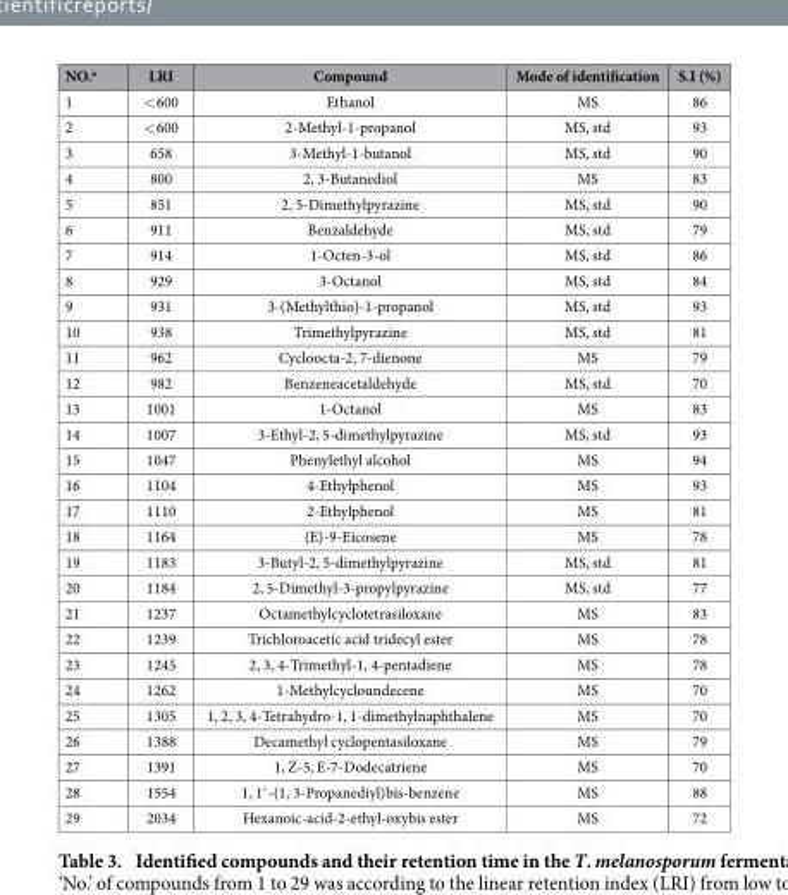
<table><thead><tr><td>NO.<sup>a</sup></td><td>LRI</td><td>Compound</td><td>Mode of identification</td><td>S.I (%)</td></tr></thead><tbody><tr><td>1</td><td>&lt; 600</td><td>Ethanol</td><td>MS</td><td>86</td></tr><tr><td>2</td><td>&lt; 600</td><td>2-Methyl-1-propanol</td><td>MS, std</td><td>93</td></tr><tr><td>3</td><td>658</td><td>3-Methyl-1-butanol</td><td>MS, std</td><td>90</td></tr><tr><td>4</td><td>800</td><td>2, 3-Butanediol</td><td>MS</td><td>83</td></tr><tr><td>5</td><td>851</td><td>2, 5-Dimethylpyrazine</td><td>MS, std</td><td>90</td></tr><tr><td>6</td><td>911</td><td>Benzaldehyde</td><td>MS, std</td><td>79</td></tr><tr><td>7</td><td>914</td><td>1-Octen-3-ol</td><td>MS, std</td><td>86</td></tr><tr><td>8</td><td>929</td><td>3-Octanol</td><td>MS, std</td><td>84</td></tr><tr><td>9</td><td>931</td><td>3-(Methylthio)-1-propanol</td><td>MS, std</td><td>93</td></tr><tr><td>10</td><td>938</td><td>Trimethylpyrazine</td><td>MS, std</td><td>81</td></tr><tr><td>11</td><td>962</td><td>Cycloocta-2, 7-dienone</td><td>MS</td><td>79</td></tr><tr><td>12</td><td>982</td><td>Benzeneacetaldehyde</td><td>MS, std</td><td>70</td></tr><tr><td>13</td><td>1001</td><td>1-Octanol</td><td>MS</td><td>83</td></tr><tr><td>14</td><td>1007</td><td>3-Ethyl-2, 5-dimethylpyrazine</td><td>MS, std</td><td>93</td></tr><tr><td>15</td><td>1047</td><td>Phenylethyl alcohol</td><td>MS</td><td>94</td></tr><tr><td>16</td><td>1104</td><td>4-Ethylphenol</td><td>MS</td><td>93</td></tr><tr><td>17</td><td>1110</td><td>2-Ethylphenol</td><td>MS</td><td>81</td></tr><tr><td>18</td><td>1164</td><td>(E)-9-Eicosene</td><td>MS</td><td>78</td></tr><tr><td>19</td><td>1183</td><td>3-Butyl-2, 5-dimethylpyrazine</td><td>MS, std</td><td>81</td></tr><tr><td>20</td><td>1184</td><td>2, 5-Dimethyl-3-propylpyrazine</td><td>MS, std</td><td>77</td></tr><tr><td>21</td><td>1237</td><td>Octamethylcyclotetrasiloxane</td><td>MS</td><td>83</td></tr><tr><td>22</td><td>1239</td><td>Trichloroacetic acid tridecyl ester</td><td>MS</td><td>78</td></tr><tr><td>23</td><td>1245</td><td>2, 3, 4-Trimethyl-1, 4-pentadiene</td><td>MS</td><td>78</td></tr><tr><td>24</td><td>1262</td><td>1-Methylcycloundecene</td><td>MS</td><td>70</td></tr><tr><td>25</td><td>1305</td><td>1, 2, 3, 4-Tetrahydro-1, 1-dimethylnaphthalene</td><td>MS</td><td>70</td></tr><tr><td>26</td><td>1388</td><td>Decamethyl cyclopentasiloxane</td><td>MS</td><td>79</td></tr><tr><td>27</td><td>1391</td><td>1, Z-5, E-7-Dodecatriene</td><td>MS</td><td>70</td></tr><tr><td>28</td><td>1554</td><td>1, 1′ -(1, 3-Propanediyl)bis-benzene</td><td>MS</td><td>88</td></tr><tr><td>29</td><td>2034</td><td>Hexanoic-acid-2-ethyl-oxybis ester</td><td>MS</td><td>72</td></tr></tbody></table>